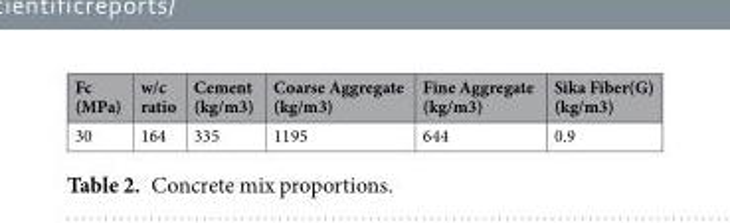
<table><thead><tr><td>Fc (MPa)</td><td>w/c ratio</td><td>Cement (kg/m3)</td><td>Coarse Aggregate (kg/m3)</td><td>Fine Aggregate (kg/m3)</td><td>Sika Fiber(G) (kg/m3)</td></tr></thead><tbody><tr><td>30</td><td>164</td><td>335</td><td>1195</td><td>644</td><td>0.9</td></tr></tbody></table>